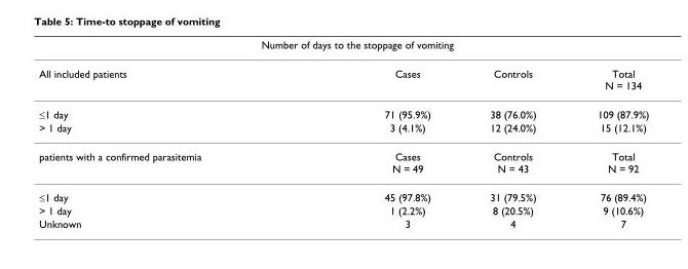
<table><thead><tr><td colspan="4">Number of days to the stoppage of vomiting</td></tr><tr><td>All included patients</td><td>Cases</td><td>Controls</td><td>Total N = 134</td></tr></thead><tbody><tr><td>≤1 day</td><td>71 (95.9%)</td><td>38 (76.0%)</td><td>109 (87.9%)</td></tr><tr><td>&gt; 1 day</td><td>3 (4.1%)</td><td>12 (24.0%)</td><td>15 (12.1%)</td></tr><tr><td>patients with a confirmed parasitemia</td><td>Cases N = 49</td><td>Controls N = 43</td><td>Total N = 92</td></tr><tr><td>≤1 day</td><td>45 (97.8%)</td><td>31 (79.5%)</td><td>76 (89.4%)</td></tr><tr><td>&gt; 1 day</td><td>1 (2.2%)</td><td>8 (20.5%)</td><td>9 (10.6%)</td></tr><tr><td>Unknown</td><td>3</td><td>4</td><td>7</td></tr></tbody></table>